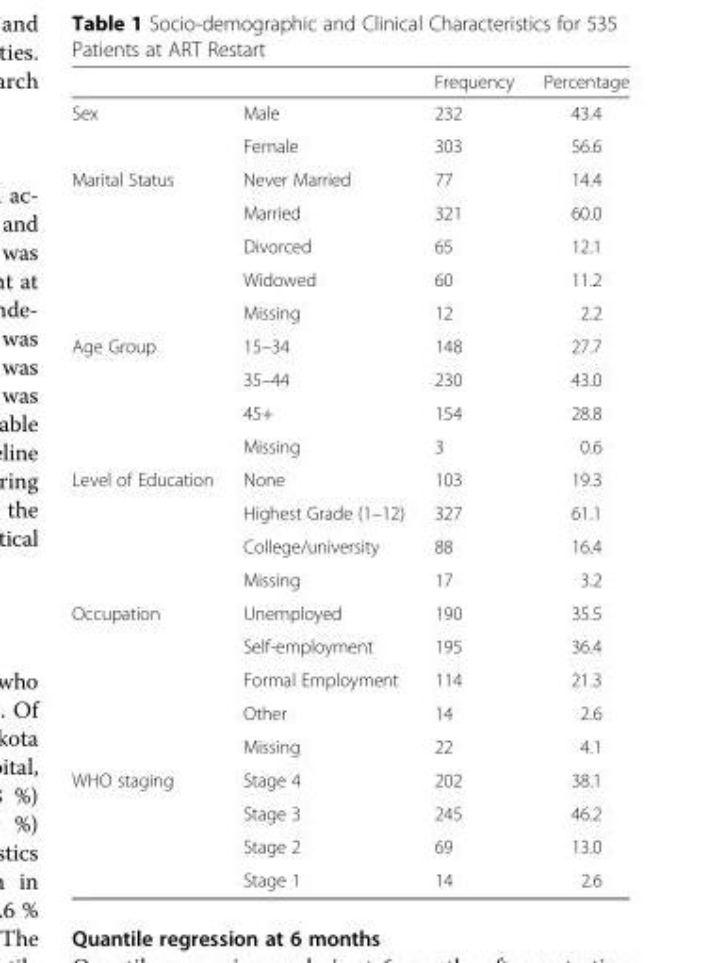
<table><thead><tr><td></td><td></td><td>Frequency</td><td>Percentage</td></tr></thead><tbody><tr><td rowspan="2">Sex</td><td>Male</td><td>232</td><td>43.4</td></tr><tr><td>Female</td><td>303</td><td>56.6</td></tr><tr><td rowspan="5">Marital Status</td><td>Never Married</td><td>77</td><td>14.4</td></tr><tr><td>Married</td><td>321</td><td>60.0</td></tr><tr><td>Divorced</td><td>65</td><td>12.1</td></tr><tr><td>Widowed</td><td>60</td><td>11.2</td></tr><tr><td>Missing</td><td>12</td><td>2.2</td></tr><tr><td rowspan="4">Age Group</td><td>15–34</td><td>148</td><td>27.7</td></tr><tr><td>35–44</td><td>230</td><td>43.0</td></tr><tr><td>45+</td><td>154</td><td>28.8</td></tr><tr><td>Missing</td><td>3</td><td>0.6</td></tr><tr><td rowspan="4">Level of Education</td><td>None</td><td>103</td><td>19.3</td></tr><tr><td>Highest Grade (1–12)</td><td>327</td><td>61.1</td></tr><tr><td>College/university</td><td>88</td><td>16.4</td></tr><tr><td>Missing</td><td>17</td><td>3.2</td></tr><tr><td rowspan="5">Occupation</td><td>Unemployed</td><td>190</td><td>35.5</td></tr><tr><td>Self-employment</td><td>195</td><td>36.4</td></tr><tr><td>Formal Employment</td><td>114</td><td>21.3</td></tr><tr><td>Other</td><td>14</td><td>2.6</td></tr><tr><td>Missing</td><td>22</td><td>4.1</td></tr><tr><td rowspan="4">WHO staging</td><td>Stage 4</td><td>202</td><td>38.1</td></tr><tr><td>Stage 3</td><td>245</td><td>46.2</td></tr><tr><td>Stage 2</td><td>69</td><td>13.0</td></tr><tr><td>Stage 1</td><td>14</td><td>2.6</td></tr></tbody></table>